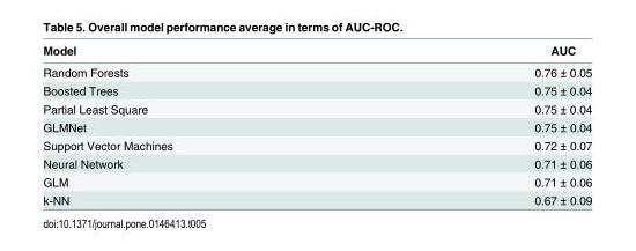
<table><thead><tr><td>Model</td><td>AUC</td></tr></thead><tbody><tr><td>Random Forests</td><td>0.76 ± 0.05</td></tr><tr><td>Boosted Trees</td><td>0.75 ± 0.04</td></tr><tr><td>Partial Least Square</td><td>0.75 ± 0.04</td></tr><tr><td>GLMNet</td><td>0.75 ± 0.04</td></tr><tr><td>Support Vector Machines</td><td>0.72 ± 0.07</td></tr><tr><td>Neural Network</td><td>0.71 ± 0.06</td></tr><tr><td>GLM</td><td>0.71 ± 0.06</td></tr><tr><td>k-NN</td><td>0.67 ± 0.09</td></tr></tbody></table>